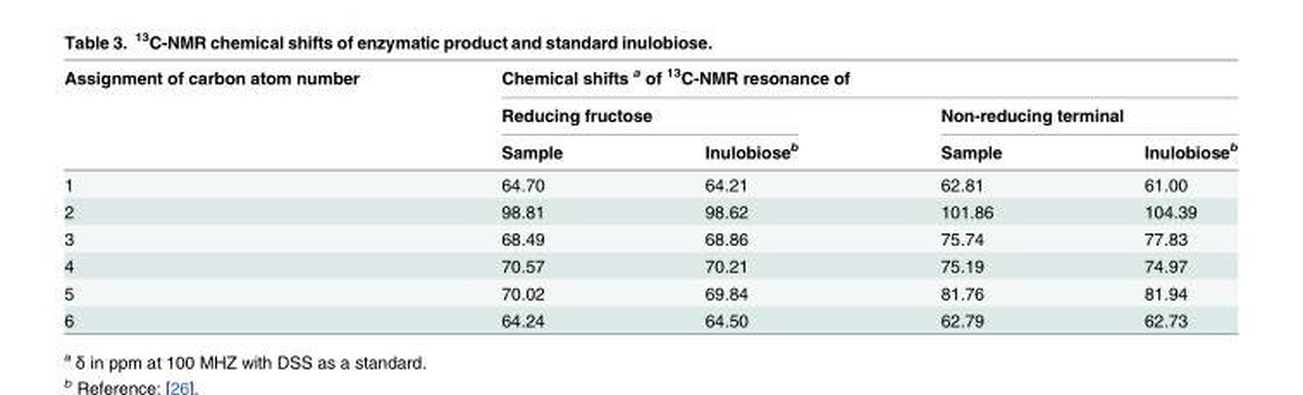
<table><thead><tr><td rowspan="3">Assignment of carbon atom number</td><td colspan="4">Chemical shifts <sup>a</sup> of <sup>13</sup>C-NMR resonance of</td></tr><tr><td colspan="2">Reducing fructose</td><td colspan="2">Non-reducing terminal</td></tr><tr><td>Sample</td><td>Inulobiose<sup>b</sup></td><td>Sample</td><td>Inulobiose<sup>b</sup></td></tr></thead><tbody><tr><td>1</td><td>64.70</td><td>64.21</td><td>62.81</td><td>61.00</td></tr><tr><td>2</td><td>98.81</td><td>98.62</td><td>101.86</td><td>104.39</td></tr><tr><td>3</td><td>68.49</td><td>68.86</td><td>75.74</td><td>77.83</td></tr><tr><td>4</td><td>70.57</td><td>70.21</td><td>75.19</td><td>74.97</td></tr><tr><td>5</td><td>70.02</td><td>69.84</td><td>81.76</td><td>81.94</td></tr><tr><td>6</td><td>64.24</td><td>64.50</td><td>62.79</td><td>62.73</td></tr></tbody></table>